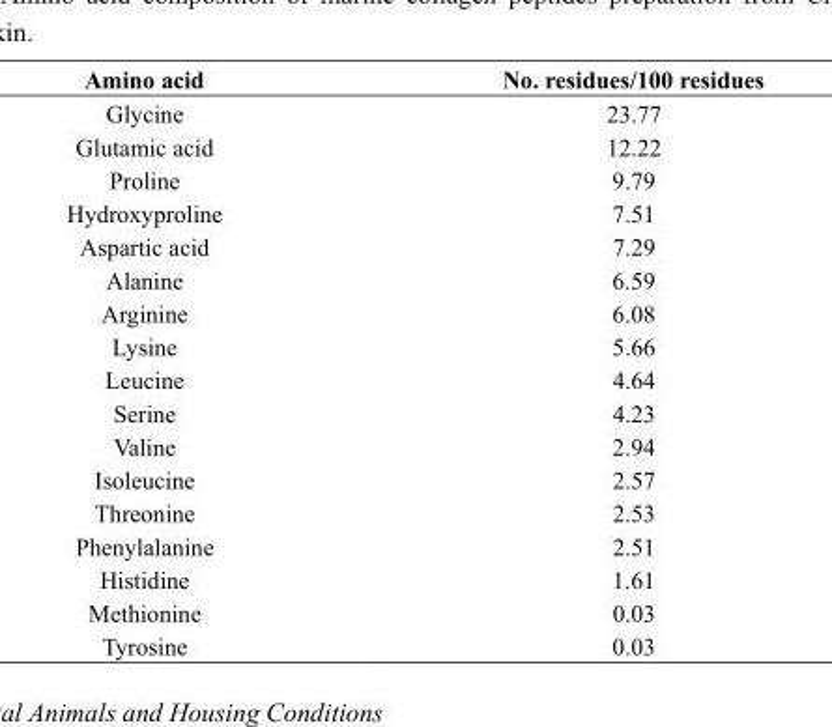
<table><thead><tr><td>Amino acid</td><td>No. residues/100 residues</td></tr></thead><tbody><tr><td>Glycine</td><td>23.77</td></tr><tr><td>Glutamic acid</td><td>12.22</td></tr><tr><td>Proline</td><td>9.79</td></tr><tr><td>Hydroxyproline</td><td>7.51</td></tr><tr><td>Aspartic acid</td><td>7.29</td></tr><tr><td>Alanine</td><td>6.59</td></tr><tr><td>Arginine</td><td>6.08</td></tr><tr><td>Lysine</td><td>5.66</td></tr><tr><td>Leucine</td><td>4.64</td></tr><tr><td>Serine</td><td>4.23</td></tr><tr><td>Valine</td><td>2.94</td></tr><tr><td>Isoleucine</td><td>2.57</td></tr><tr><td>Threonine</td><td>2.53</td></tr><tr><td>Phenylalanine</td><td>2.51</td></tr><tr><td>Histidine</td><td>1.61</td></tr><tr><td>Methionine</td><td>0.03</td></tr><tr><td>Tyrosine</td><td>0.03</td></tr></tbody></table>